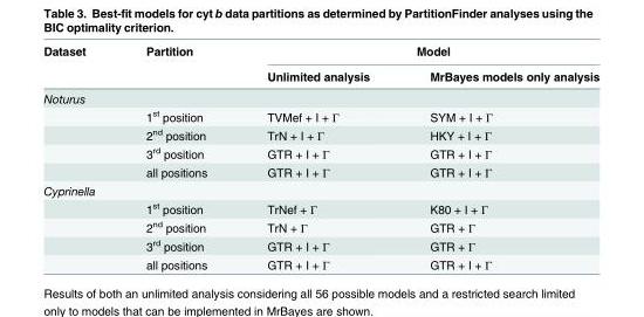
<table><thead><tr><td rowspan="2">Dataset</td><td rowspan="2">Partition</td><td colspan="2">Model</td></tr><tr><td>Unlimited analysis</td><td>MrBayes models only analysis</td></tr></thead><tbody><tr><td colspan="4">Noturus</td></tr><tr><td></td><td>1<sup>st</sup> position</td><td>TVMef + I + Γ</td><td>SYM + I + Γ</td></tr><tr><td></td><td>2<sup>nd</sup> position</td><td>TrN + I + Γ</td><td>HKY + I + Γ</td></tr><tr><td></td><td>3<sup>rd</sup> position</td><td>GTR + I + Γ</td><td>GTR + I + Γ</td></tr><tr><td></td><td>all positions</td><td>GTR + I + Γ</td><td>GTR + I + Γ</td></tr><tr><td colspan="4">Cyprinella</td></tr><tr><td></td><td>1<sup>st</sup> position</td><td>TrNef + Γ</td><td>K80 + I + Γ</td></tr><tr><td></td><td>2<sup>nd</sup> position</td><td>TrN + Γ</td><td>GTR + Γ</td></tr><tr><td></td><td>3<sup>rd</sup> position</td><td>GTR + I + Γ</td><td>GTR + Γ</td></tr><tr><td></td><td>all positions</td><td>GTR + I + Γ</td><td>GTR + I + Γ</td></tr></tbody></table>